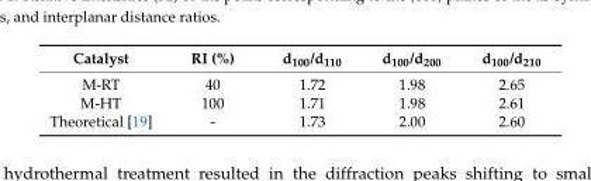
<table><thead><tr><td>Catalyst</td><td>RI (%)</td><td>d<sub>100</sub>/d<sub>110</sub></td><td>d<sub>100</sub>/d<sub>200</sub></td><td>d<sub>100</sub>/d<sub>210</sub></td></tr></thead><tbody><tr><td>M-RT</td><td>40</td><td>1.72</td><td>1.98</td><td>2.65</td></tr><tr><td>M-HT</td><td>100</td><td>1.71</td><td>1.98</td><td>2.61</td></tr><tr><td>Theoretical [19]</td><td>-</td><td>1.73</td><td>2.00</td><td>2.60</td></tr></tbody></table>